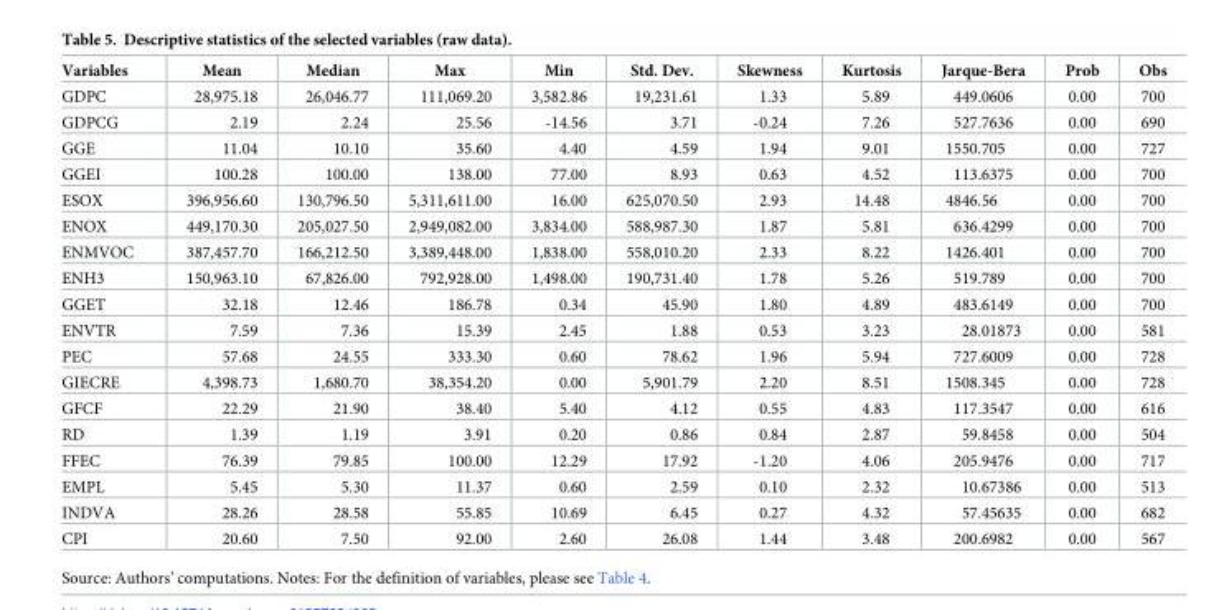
<table><thead><tr><td>Variables</td><td>Mean</td><td>Median</td><td>Max</td><td>Min</td><td>Std. Dev.</td><td>Skewness</td><td>Kurtosis</td><td>Jarque-Bera</td><td>Prob</td><td>Obs</td></tr></thead><tbody><tr><td>GDPC</td><td>28,975.18</td><td>26,046.77</td><td>111,069.20</td><td>3,582.86</td><td>19,231.61</td><td>1.33</td><td>5.89</td><td>449.0606</td><td>0.00</td><td>700</td></tr><tr><td>GDPCG</td><td>2.19</td><td>2.24</td><td>25.56</td><td>-14.56</td><td>3.71</td><td>-0.24</td><td>7.26</td><td>527.7636</td><td>0.00</td><td>690</td></tr><tr><td>GGE</td><td>11.04</td><td>10.10</td><td>35.60</td><td>4.40</td><td>4.59</td><td>1.94</td><td>9.01</td><td>1550.705</td><td>0.00</td><td>727</td></tr><tr><td>GGEI</td><td>100.28</td><td>100.00</td><td>138.00</td><td>77.00</td><td>8.93</td><td>0.63</td><td>4.52</td><td>113.6375</td><td>0.00</td><td>700</td></tr><tr><td>ESOX</td><td>396,956.60</td><td>130,796.50</td><td>5,311,611.00</td><td>16.00</td><td>625,070.50</td><td>2.93</td><td>14.48</td><td>4846.56</td><td>0.00</td><td>700</td></tr><tr><td>ENOX</td><td>449,170.30</td><td>205,027.50</td><td>2,949,082.00</td><td>3,834.00</td><td>588,987.30</td><td>1.87</td><td>5.81</td><td>636.4299</td><td>0.00</td><td>700</td></tr><tr><td>ENMVOC</td><td>387,457.70</td><td>166,212.50</td><td>3,389,448.00</td><td>1,838.00</td><td>558,010.20</td><td>2.33</td><td>8.22</td><td>1426.401</td><td>0.00</td><td>700</td></tr><tr><td>ENH3</td><td>150,963.10</td><td>67,826.00</td><td>792,928.00</td><td>1,498.00</td><td>190,731.40</td><td>1.78</td><td>5.26</td><td>519.789</td><td>0.00</td><td>700</td></tr><tr><td>GGET</td><td>32.18</td><td>12.46</td><td>186.78</td><td>0.34</td><td>45.90</td><td>1.80</td><td>4.89</td><td>483.6149</td><td>0.00</td><td>700</td></tr><tr><td>ENVTR</td><td>7.59</td><td>7.36</td><td>15.39</td><td>2.45</td><td>1.88</td><td>0.53</td><td>3.23</td><td>28.01873</td><td>0.00</td><td>581</td></tr><tr><td>PEC</td><td>57.68</td><td>24.55</td><td>333.30</td><td>0.60</td><td>78.62</td><td>1.96</td><td>5.94</td><td>727.6009</td><td>0.00</td><td>728</td></tr><tr><td>GIECRE</td><td>4,398.73</td><td>1,680.70</td><td>38,354.20</td><td>0.00</td><td>5,901.79</td><td>2.20</td><td>8.51</td><td>1508.345</td><td>0.00</td><td>728</td></tr><tr><td>GFCF</td><td>22.29</td><td>21.90</td><td>38.40</td><td>5.40</td><td>4.12</td><td>0.55</td><td>4.83</td><td>117.3547</td><td>0.00</td><td>616</td></tr><tr><td>RD</td><td>1.39</td><td>1.19</td><td>3.91</td><td>0.20</td><td>0.86</td><td>0.84</td><td>2.87</td><td>59.8458</td><td>0.00</td><td>504</td></tr><tr><td>FFEC</td><td>76.39</td><td>79.85</td><td>100.00</td><td>12.29</td><td>17.92</td><td>-1.20</td><td>4.06</td><td>205.9476</td><td>0.00</td><td>717</td></tr><tr><td>EMPL</td><td>5.45</td><td>5.30</td><td>11.37</td><td>0.60</td><td>2.59</td><td>0.10</td><td>2.32</td><td>10.67386</td><td>0.00</td><td>513</td></tr><tr><td>INDVA</td><td>28.26</td><td>28.58</td><td>55.85</td><td>10.69</td><td>6.45</td><td>0.27</td><td>4.32</td><td>57.45635</td><td>0.00</td><td>682</td></tr><tr><td>CPI</td><td>20.60</td><td>7.50</td><td>92.00</td><td>2.60</td><td>26.08</td><td>1.44</td><td>3.48</td><td>200.6982</td><td>0.00</td><td>567</td></tr></tbody></table>